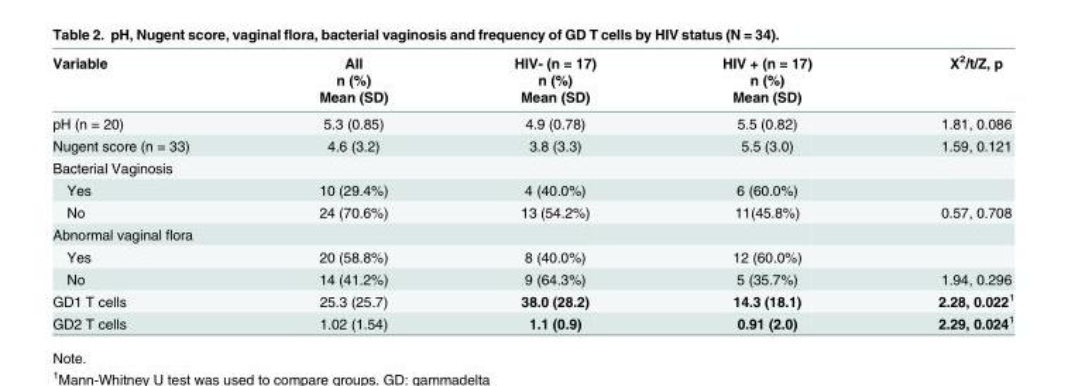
<table><thead><tr><td rowspan="3">Variable</td><td rowspan="3">All n (%) Mean (SD)</td><td rowspan="3">HIV- (n = 17) n (%) Mean (SD)</td><td rowspan="3">HIV + (n = 17) n (%) Mean (SD)</td><td rowspan="3">X<sup>2</sup>/t/Z, p</td></tr><tr></tr><tr></tr></thead><tbody><tr><td>pH (n = 20)</td><td>5.3 (0.85)</td><td>4.9 (0.78)</td><td>5.5 (0.82)</td><td>1.81, 0.086</td></tr><tr><td>Nugent score (n = 33)</td><td>4.6 (3.2)</td><td>3.8 (3.3)</td><td>5.5 (3.0)</td><td>1.59, 0.121</td></tr><tr><td colspan="5">Bacterial Vaginosis</td></tr><tr><td>Yes</td><td>10 (29.4%)</td><td>4 (40.0%)</td><td>6 (60.0%)</td><td></td></tr><tr><td>No</td><td>24 (70.6%)</td><td>13 (54.2%)</td><td>11(45.8%)</td><td>0.57, 0.708</td></tr><tr><td colspan="5">Abnormal vaginal flora</td></tr><tr><td>Yes</td><td>20 (58.8%)</td><td>8 (40.0%)</td><td>12 (60.0%)</td><td></td></tr><tr><td>No</td><td>14 (41.2%)</td><td>9 (64.3%)</td><td>5 (35.7%)</td><td>1.94, 0.296</td></tr><tr><td>GD1 T cells</td><td>25.3 (25.7)</td><td>38.0 (28.2)</td><td>14.3 (18.1)</td><td>2.28, 0.022<sup>1</sup></td></tr><tr><td>GD2 T cells</td><td>1.02 (1.54)</td><td>1.1 (0.9)</td><td>0.91 (2.0)</td><td>2.29, 0.024<sup>1</sup></td></tr></tbody></table>